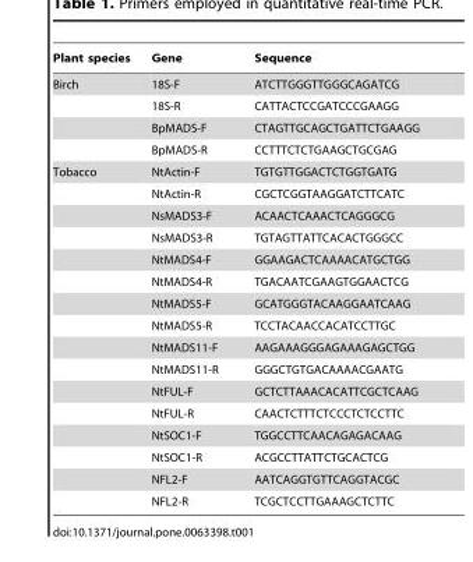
<table><thead><tr><td>Plant species</td><td>Gene</td><td>Sequence</td></tr></thead><tbody><tr><td rowspan="4">Birch</td><td>18S-F</td><td>ATCTTGGGTTGGGCAGATCG</td></tr><tr><td>18S-R</td><td>CATTACTCCGATCCCGAAGG</td></tr><tr><td>BpMADS-F</td><td>CTAGTTGCAGCTGATTCTGAAGG</td></tr><tr><td>BpMADS-R</td><td>CCTTTCTCTGAAGCTGCGAG</td></tr><tr><td rowspan="16">Tobacco</td><td>NtActin-F</td><td>TGTGTTGGACTCTGGTGATG</td></tr><tr><td>NtActin-R</td><td>CGCTCGGTAAGGATCTTCATC</td></tr><tr><td>NsMADS3-F</td><td>ACAACTCAAACTCAGGGCG</td></tr><tr><td>NsMADS3-R</td><td>TGTAGTTATTCACACTGGGCC</td></tr><tr><td>NtMADS4-F</td><td>GGAAGACTCAAAACATGCTGG</td></tr><tr><td>NtMADS4-R</td><td>TGACAATCGAAGTGGAACTCG</td></tr><tr><td>NtMADS5-F</td><td>GCATGGGTACAAGGAATCAAG</td></tr><tr><td>NtMADS5-R</td><td>TCCTACAACCACATCCTTGC</td></tr><tr><td>NtMADS11-F</td><td>AAGAAAGGGAGAAAGAGCTGG</td></tr><tr><td>NtMADS11-R</td><td>GGGCTGTGACAAAACGAATG</td></tr><tr><td>NtFUL-F</td><td>GCTCTTAAACACATTCGCTCAAG</td></tr><tr><td>NtFUL-R</td><td>CAACTCTTTCTCCCTCTCCTTC</td></tr><tr><td>NtSOC1-F</td><td>TGGCCTTCAACAGAGACAAG</td></tr><tr><td>NtSOC1-R</td><td>ACGCCTTATTCTGCACTCG</td></tr><tr><td>NFL2-F</td><td>AATCAGGTGTTCAGGTACGC</td></tr><tr><td>NFL2-R</td><td>TCGCTCCTTGAAAGCTCTTC</td></tr></tbody></table>